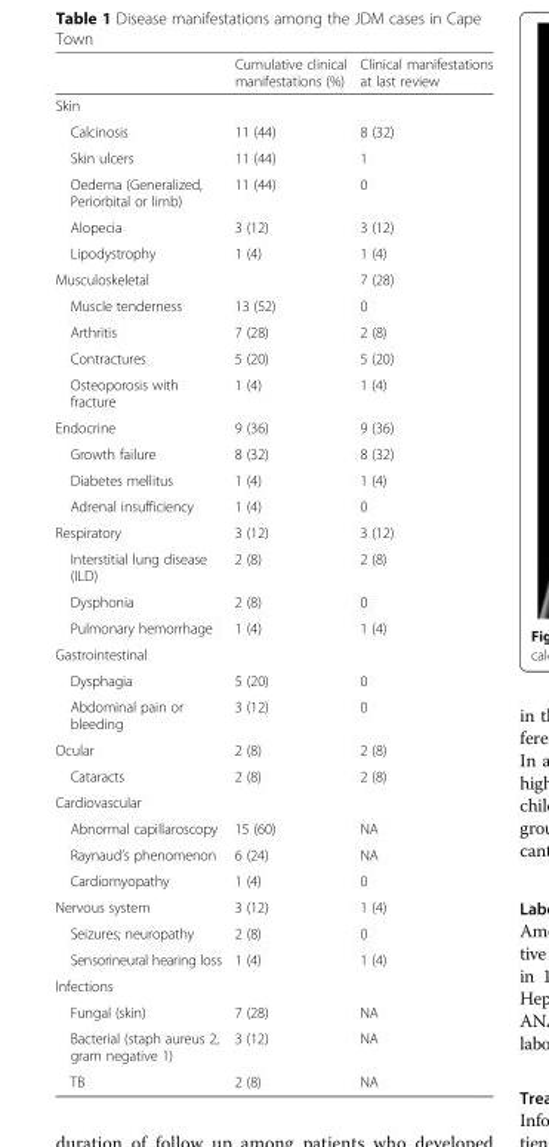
<table><thead><tr><td></td><td>Cumulative clinical manifestations (%)</td><td>Clinical manifestations at last review</td></tr></thead><tbody><tr><td colspan="3">Skin</td></tr><tr><td>Calcinosis</td><td>11 (44)</td><td>8 (32)</td></tr><tr><td>Skin ulcers</td><td>11 (44)</td><td>1</td></tr><tr><td>Oedema (Generalized, Periorbital or limb)</td><td>11 (44)</td><td>0</td></tr><tr><td>Alopecia</td><td>3 (12)</td><td>3 (12)</td></tr><tr><td>Lipodystrophy</td><td>1 (4)</td><td>1 (4)</td></tr><tr><td>Musculoskeletal</td><td></td><td>7 (28)</td></tr><tr><td>Muscle tenderness</td><td>13 (52)</td><td>0</td></tr><tr><td>Arthritis</td><td>7 (28)</td><td>2 (8)</td></tr><tr><td>Contractures</td><td>5 (20)</td><td>5 (20)</td></tr><tr><td>Osteoporosis with fracture</td><td>1 (4)</td><td>1 (4)</td></tr><tr><td>Endocrine</td><td>9 (36)</td><td>9 (36)</td></tr><tr><td>Growth failure</td><td>8 (32)</td><td>8 (32)</td></tr><tr><td>Diabetes mellitus</td><td>1 (4)</td><td>1 (4)</td></tr><tr><td>Adrenal insufficiency</td><td>1 (4)</td><td>0</td></tr><tr><td>Respiratory</td><td>3 (12)</td><td>3 (12)</td></tr><tr><td>Interstitial lung disease (ILD)</td><td>2 (8)</td><td>2 (8)</td></tr><tr><td>Dysphonia</td><td>2 (8)</td><td>0</td></tr><tr><td>Pulmonary hemorrhage</td><td>1 (4)</td><td>1 (4)</td></tr><tr><td colspan="3">Gastrointestinal</td></tr><tr><td>Dysphagia</td><td>5 (20)</td><td>0</td></tr><tr><td>Abdominal pain or bleeding</td><td>3 (12)</td><td>0</td></tr><tr><td>Ocular</td><td>2 (8)</td><td>2 (8)</td></tr><tr><td>Cataracts</td><td>2 (8)</td><td>2 (8)</td></tr><tr><td colspan="3">Cardiovascular</td></tr><tr><td>Abnormal capillaroscopy</td><td>15 (60)</td><td>NA</td></tr><tr><td>Raynaud’s phenomenon</td><td>6 (24)</td><td>NA</td></tr><tr><td>Cardiomyopathy</td><td>1 (4)</td><td>0</td></tr><tr><td>Nervous system</td><td>3 (12)</td><td>1 (4)</td></tr><tr><td>Seizures; neuropathy</td><td>2 (8)</td><td>0</td></tr><tr><td>Sensorineural hearing loss</td><td>1 (4)</td><td>1 (4)</td></tr><tr><td colspan="3">Infections</td></tr><tr><td>Fungal (skin)</td><td>7 (28)</td><td>NA</td></tr><tr><td>Bacterial (staph aureus 2, gram negative 1)</td><td>3 (12)</td><td>NA</td></tr><tr><td>TB</td><td>2 (8)</td><td>NA</td></tr></tbody></table>